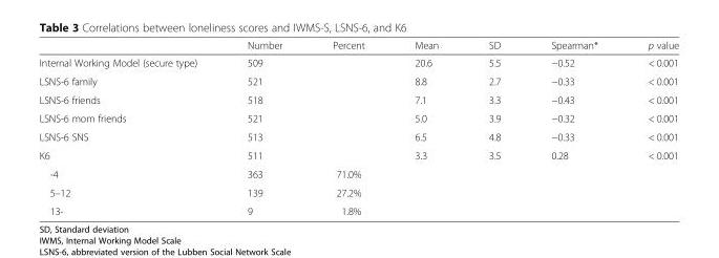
<table><thead><tr><td></td><td>Number</td><td>Percent</td><td>Mean</td><td>SD</td><td>Spearman*</td><td>p value</td></tr></thead><tbody><tr><td>Internal Working Model (secure type)</td><td>509</td><td></td><td>20.6</td><td>5.5</td><td>−0.52</td><td>&lt; 0.001</td></tr><tr><td>LSNS-6 family</td><td>521</td><td></td><td>8.8</td><td>2.7</td><td>−0.33</td><td>&lt; 0.001</td></tr><tr><td>LSNS-6 friends</td><td>518</td><td></td><td>7.1</td><td>3.3</td><td>−0.43</td><td>&lt; 0.001</td></tr><tr><td>LSNS-6 mom friends</td><td>521</td><td></td><td>5.0</td><td>3.9</td><td>−0.32</td><td>&lt; 0.001</td></tr><tr><td>LSNS-6 SNS</td><td>513</td><td></td><td>6.5</td><td>4.8</td><td>−0.33</td><td>&lt; 0.001</td></tr><tr><td>K6</td><td>511</td><td></td><td>3.3</td><td>3.5</td><td>0.28</td><td>&lt; 0.001</td></tr><tr><td>-4</td><td>363</td><td>71.0%</td><td></td><td></td><td></td><td></td></tr><tr><td>5–12</td><td>139</td><td>27.2%</td><td></td><td></td><td></td><td></td></tr><tr><td>13-</td><td>9</td><td>1.8%</td><td></td><td></td><td></td><td></td></tr></tbody></table>